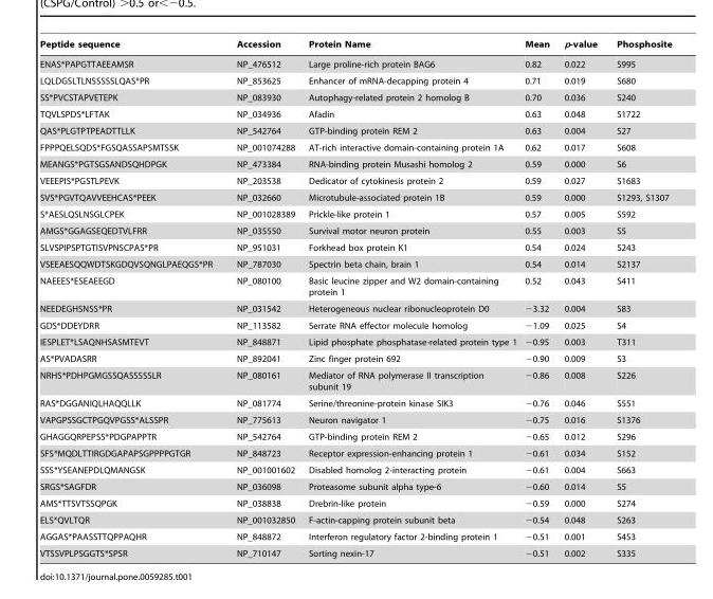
<table><thead><tr><td>Peptide sequence</td><td>Accession</td><td>Protein Name</td><td>Mean</td><td>p-value</td><td>Phosphosite</td></tr></thead><tbody><tr><td>ENAS*PAPGTTAEEAMSR</td><td>NP_476512</td><td>Large proline-rich protein BAG6</td><td>0.82</td><td>0.022</td><td>S995</td></tr><tr><td>LQLDGSLTLNSSSSSLQAS*PR</td><td>NP_853625</td><td>Enhancer of mRNA-decapping protein 4</td><td>0.71</td><td>0.019</td><td>S680</td></tr><tr><td>SS*PVCSTAPVETEPK</td><td>NP_083930</td><td>Autophagy-related protein 2 homolog B</td><td>0.70</td><td>0.036</td><td>S240</td></tr><tr><td>TQVLSPDS*LFTAK</td><td>NP_034936</td><td>Afadin</td><td>0.63</td><td>0.048</td><td>S1722</td></tr><tr><td>QAS*PLGTPTPEADTTLLK</td><td>NP_542764</td><td>GTP-binding protein REM 2</td><td>0.63</td><td>0.004</td><td>S27</td></tr><tr><td>FPPPQELSQDS*FGSQASSAPSMTSSK</td><td>NP_001074288</td><td>AT-rich interactive domain-containing protein 1A</td><td>0.62</td><td>0.017</td><td>S608</td></tr><tr><td>MEANGS*PGTSGSANDSQHDPGK</td><td>NP_473384</td><td>RNA-binding protein Musashi homolog 2</td><td>0.59</td><td>0.000</td><td>S6</td></tr><tr><td>VEEEPIS*PGSTLPEVK</td><td>NP_203538</td><td>Dedicator of cytokinesis protein 2</td><td>0.59</td><td>0.027</td><td>S1683</td></tr><tr><td>SVS*PGVTQAVVEEHCAS*PEEK</td><td>NP_032660</td><td>Microtubule-associated protein 1B</td><td>0.59</td><td>0.000</td><td>S1293, S1307</td></tr><tr><td>S*AESLQSLNSGLCPEK</td><td>NP_001028389</td><td>Prickle-like protein 1</td><td>0.57</td><td>0.005</td><td>S592</td></tr><tr><td>AMGS*GGAGSEQEDTVLFRR</td><td>NP_035550</td><td>Survival motor neuron protein</td><td>0.55</td><td>0.003</td><td>S5</td></tr><tr><td>SLVSPIPSPTGTISVPNSCPAS*PR</td><td>NP_951031</td><td>Forkhead box protein K1</td><td>0.54</td><td>0.024</td><td>S243</td></tr><tr><td>VSEEAESQQWDTSKGDQVSQNGLPAEQGS*PR</td><td>NP_787030</td><td>Spectrin beta chain, brain 1</td><td>0.54</td><td>0.014</td><td>S2137</td></tr><tr><td>NAEEES*ESEAEEGD</td><td>NP_080100</td><td>Basic leucine zipper and W2 domain-containing protein 1</td><td>0.52</td><td>0.043</td><td>S411</td></tr><tr><td>NEEDEGHSNSS*PR</td><td>NP_031542</td><td>Heterogeneous nuclear ribonucleoprotein D0</td><td>−3.32</td><td>0.004</td><td>S83</td></tr><tr><td>GDS*DDEYDRR</td><td>NP_113582</td><td>Serrate RNA effector molecule homolog</td><td>−1.09</td><td>0.025</td><td>S4</td></tr><tr><td>IESPLET*LSAQNHSASMTEVT</td><td>NP_848871</td><td>Lipid phosphate phosphatase-related protein type 1</td><td>−0.95</td><td>0.003</td><td>T311</td></tr><tr><td>AS*PVADASRR</td><td>NP_892041</td><td>Zinc finger protein 692</td><td>−0.90</td><td>0.009</td><td>S3</td></tr><tr><td>NRHS*PDHPGMGSSQASSSSSLR</td><td>NP_080161</td><td>Mediator of RNA polymerase II transcription subunit 19</td><td>−0.86</td><td>0.008</td><td>S226</td></tr><tr><td>RAS*DGGANIQLHAQQLLK</td><td>NP_081774</td><td>Serine/threonine-protein kinase SIK3</td><td>−0.76</td><td>0.046</td><td>S551</td></tr><tr><td>VAPGPSSGCTPGQVPGSS*ALSSPR</td><td>NP_775613</td><td>Neuron navigator 1</td><td>−0.75</td><td>0.016</td><td>S1376</td></tr><tr><td>GHAGGQRPEPSS*PDGPAPPTR</td><td>NP_542764</td><td>GTP-binding protein REM 2</td><td>−0.65</td><td>0.012</td><td>S296</td></tr><tr><td>SFS*MQDLTTIRGDGAPAPSGPPPPGTGR</td><td>NP_848723</td><td>Receptor expression-enhancing protein 1</td><td>−0.61</td><td>0.034</td><td>S152</td></tr><tr><td>SSS*YSEANEPDLQMANGSK</td><td>NP_001001602</td><td>Disabled homolog 2-interacting protein</td><td>−0.61</td><td>0.004</td><td>S663</td></tr><tr><td>SRGS*SAGFDR</td><td>NP_036098</td><td>Proteasome subunit alpha type-6</td><td>−0.60</td><td>0.014</td><td>S5</td></tr><tr><td>AMS*TTSVTSSQPGK</td><td>NP_038838</td><td>Drebrin-like protein</td><td>−0.59</td><td>0.000</td><td>S274</td></tr><tr><td>ELS*QVLTQR</td><td>NP_001032850</td><td>F-actin-capping protein subunit beta</td><td>−0.54</td><td>0.048</td><td>S263</td></tr><tr><td>AGGAS*PAASSTTQPPAQHR</td><td>NP_848872</td><td>Interferon regulatory factor 2-binding protein 1</td><td>−0.51</td><td>0.001</td><td>S453</td></tr><tr><td>VTSSVPLPSGGTS*SPSR</td><td>NP_710147</td><td>Sorting nexin-17</td><td>−0.51</td><td>0.002</td><td>S335</td></tr></tbody></table>